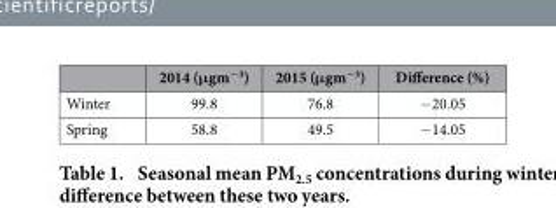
<table><thead><tr><td></td><td>2014 (μgm<sup>−3</sup>)</td><td>2015 (μgm<sup>−3</sup>)</td><td>Difference (%)</td></tr></thead><tbody><tr><td>Winter</td><td>99.8</td><td>76.8</td><td>− 20.05</td></tr><tr><td>Spring</td><td>58.8</td><td>49.5</td><td>− 14.05</td></tr></tbody></table>